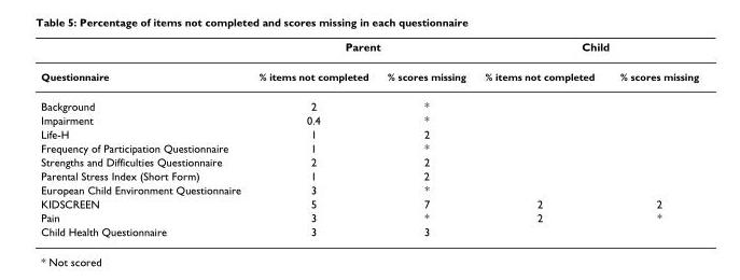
<table><thead><tr><td rowspan="2">Questionnaire</td><td colspan="2">Parent</td><td colspan="2">Child</td></tr><tr><td>% items not completed</td><td>% scores missing</td><td>% items not completed</td><td>% scores missing</td></tr></thead><tbody><tr><td>Background</td><td>2</td><td>*</td><td></td><td></td></tr><tr><td>Impairment</td><td>0.4</td><td>*</td><td></td><td></td></tr><tr><td>Life-H</td><td>1</td><td>2</td><td></td><td></td></tr><tr><td>Frequency of Participation Questionnaire</td><td>1</td><td>*</td><td></td><td></td></tr><tr><td>Strengths and Difficulties Questionnaire</td><td>2</td><td>2</td><td></td><td></td></tr><tr><td>Parental Stress Index (Short Form)</td><td>1</td><td>2</td><td></td><td></td></tr><tr><td>European Child Environment Questionnaire</td><td>3</td><td>*</td><td></td><td></td></tr><tr><td>KIDSCREEN</td><td>5</td><td>7</td><td>2</td><td>2</td></tr><tr><td>Pain</td><td>3</td><td>*</td><td>2</td><td>*</td></tr><tr><td>Child Health Questionnaire</td><td>3</td><td>3</td><td></td><td></td></tr></tbody></table>